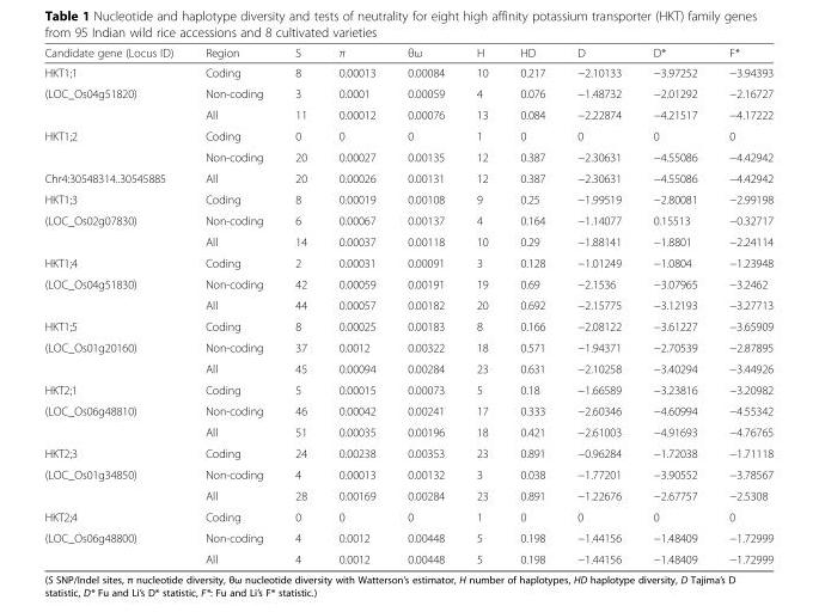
<table><thead><tr><td>Candidate gene (Locus ID)</td><td>Region</td><td>S</td><td>π</td><td>θω</td><td>H</td><td>HD</td><td>D</td><td>D*</td><td>F*</td></tr></thead><tbody><tr><td>HKT1;1</td><td>Coding</td><td>8</td><td>0.00013</td><td>0.00084</td><td>10</td><td>0.217</td><td>−2.10133</td><td>−3.97252</td><td>−3.94393</td></tr><tr><td rowspan="2">(LOC_Os04g51820)</td><td>Non-coding</td><td>3</td><td>0.0001</td><td>0.00059</td><td>4</td><td>0.076</td><td>−1.48732</td><td>−2.01292</td><td>−2.16727</td></tr><tr><td>All</td><td>11</td><td>0.00012</td><td>0.00076</td><td>13</td><td>0.084</td><td>−2.22874</td><td>−4.21517</td><td>−4.17222</td></tr><tr><td rowspan="2">HKT1;2</td><td>Coding</td><td>0</td><td>0</td><td>0</td><td>1</td><td>0</td><td>0</td><td>0</td><td>0</td></tr><tr><td>Non-coding</td><td>20</td><td>0.00027</td><td>0.00135</td><td>12</td><td>0.387</td><td>−2.30631</td><td>−4.55086</td><td>−4.42942</td></tr><tr><td>Chr4:30548314..30545885</td><td>All</td><td>20</td><td>0.00026</td><td>0.00131</td><td>12</td><td>0.387</td><td>−2.30631</td><td>−4.55086</td><td>−4.42942</td></tr><tr><td>HKT1;3</td><td>Coding</td><td>8</td><td>0.00019</td><td>0.00108</td><td>9</td><td>0.25</td><td>−1.99519</td><td>−2.80081</td><td>−2.99198</td></tr><tr><td rowspan="2">(LOC_Os02g07830)</td><td>Non-coding</td><td>6</td><td>0.00067</td><td>0.00137</td><td>4</td><td>0.164</td><td>−1.14077</td><td>0.15513</td><td>−0.32717</td></tr><tr><td>All</td><td>14</td><td>0.00037</td><td>0.00118</td><td>10</td><td>0.29</td><td>−1.88141</td><td>−1.8801</td><td>−2.24114</td></tr><tr><td>HKT1;4</td><td>Coding</td><td>2</td><td>0.00031</td><td>0.00091</td><td>3</td><td>0.128</td><td>−1.01249</td><td>−1.0804</td><td>−1.23948</td></tr><tr><td rowspan="2">(LOC_Os04g51830)</td><td>Non-coding</td><td>42</td><td>0.00059</td><td>0.00191</td><td>19</td><td>0.69</td><td>−2.1536</td><td>−3.07965</td><td>−3.2462</td></tr><tr><td>All</td><td>44</td><td>0.00057</td><td>0.00182</td><td>20</td><td>0.692</td><td>−2.15775</td><td>−3.12193</td><td>−3.27713</td></tr><tr><td>HKT1;5</td><td>Coding</td><td>8</td><td>0.00025</td><td>0.00183</td><td>8</td><td>0.166</td><td>−2.08122</td><td>−3.61227</td><td>−3.65909</td></tr><tr><td rowspan="2">(LOC_Os01g20160)</td><td>Non-coding</td><td>37</td><td>0.0012</td><td>0.00322</td><td>18</td><td>0.571</td><td>−1.94371</td><td>−2.70539</td><td>−2.87895</td></tr><tr><td>All</td><td>45</td><td>0.00094</td><td>0.00284</td><td>23</td><td>0.631</td><td>−2.10258</td><td>−3.40294</td><td>−3.44926</td></tr><tr><td>HKT2;1</td><td>Coding</td><td>5</td><td>0.00015</td><td>0.00073</td><td>5</td><td>0.18</td><td>−1.66589</td><td>−3.23816</td><td>−3.20982</td></tr><tr><td rowspan="2">(LOC_Os06g48810)</td><td>Non-coding</td><td>46</td><td>0.00042</td><td>0.00241</td><td>17</td><td>0.333</td><td>−2.60346</td><td>−4.60994</td><td>−4.55342</td></tr><tr><td>All</td><td>51</td><td>0.00035</td><td>0.00196</td><td>18</td><td>0.421</td><td>−2.61003</td><td>−4.91693</td><td>−4.76765</td></tr><tr><td>HKT2;3</td><td>Coding</td><td>24</td><td>0.00238</td><td>0.00353</td><td>23</td><td>0.891</td><td>−0.96284</td><td>−1.72038</td><td>−1.71118</td></tr><tr><td rowspan="2">(LOC_Os01g34850)</td><td>Non-coding</td><td>4</td><td>0.00013</td><td>0.00132</td><td>3</td><td>0.038</td><td>−1.77201</td><td>−3.90552</td><td>−3.78567</td></tr><tr><td>All</td><td>28</td><td>0.00169</td><td>0.00284</td><td>23</td><td>0.891</td><td>−1.22676</td><td>−2.67757</td><td>−2.5308</td></tr><tr><td>HKT2;4</td><td>Coding</td><td>0</td><td>0</td><td>0</td><td>1</td><td>0</td><td>0</td><td>0</td><td>0</td></tr><tr><td rowspan="2">(LOC_Os06g48800)</td><td>Non-coding</td><td>4</td><td>0.0012</td><td>0.00448</td><td>5</td><td>0.198</td><td>−1.44156</td><td>−1.48409</td><td>−1.72999</td></tr><tr><td>All</td><td>4</td><td>0.0012</td><td>0.00448</td><td>5</td><td>0.198</td><td>−1.44156</td><td>−1.48409</td><td>−1.72999</td></tr></tbody></table>